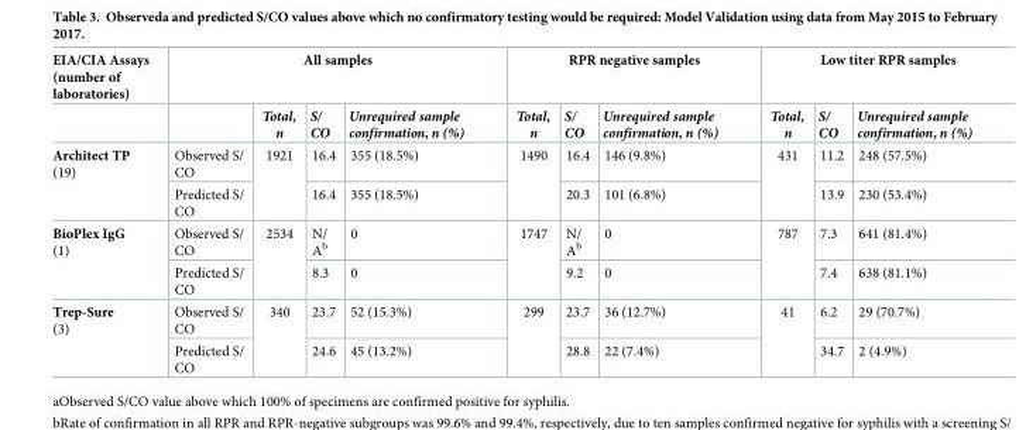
<table><thead><tr><td rowspan="2">EIA/CIA Assays (number of laboratories)</td><td colspan="4">All samples</td><td colspan="3">RPR negative samples</td><td colspan="3">Low titer RPR samples</td></tr><tr><td></td><td>Total, n</td><td>S/ CO</td><td>Unrequired sample confirmation, n (%)</td><td>Total, n</td><td>S/ CO</td><td>Unrequired sample confirmation, n (%)</td><td>Total, n</td><td>S/ CO</td><td>Unrequired sample confirmation, n (%)</td></tr></thead><tbody><tr><td rowspan="2">Architect TP (19)</td><td>Observed S/ CO</td><td rowspan="2">1921</td><td>16.4</td><td>355 (18.5%)</td><td rowspan="2">1490</td><td>16.4</td><td>146 (9.8%)</td><td rowspan="2">431</td><td>11.2</td><td>248 (57.5%)</td></tr><tr><td>Predicted S/ CO</td><td>16.4</td><td>355 (18.5%)</td><td>20.3</td><td>101 (6.8%)</td><td>13.9</td><td>230 (53.4%)</td></tr><tr><td rowspan="2">BioPlex IgG (1)</td><td>Observed S/ CO</td><td rowspan="2">2534</td><td>N/ A<sup>b</sup></td><td>0</td><td rowspan="2">1747</td><td>N/ A<sup>b</sup></td><td>0</td><td rowspan="2">787</td><td>7.3</td><td>641 (81.4%)</td></tr><tr><td>Predicted S/ CO</td><td>8.3</td><td>0</td><td>9.2</td><td>0</td><td>7.4</td><td>638 (81.1%)</td></tr><tr><td rowspan="2">Trep-Sure (3)</td><td>Observed S/ CO</td><td rowspan="2">340</td><td>23.7</td><td>52 (15.3%)</td><td rowspan="2">299</td><td>23.7</td><td>36 (12.7%)</td><td rowspan="2">41</td><td>6.2</td><td>29 (70.7%)</td></tr><tr><td>Predicted S/ CO</td><td>24.6</td><td>45 (13.2%)</td><td>28.8</td><td>22 (7.4%)</td><td>34.7</td><td>2 (4.9%)</td></tr></tbody></table>